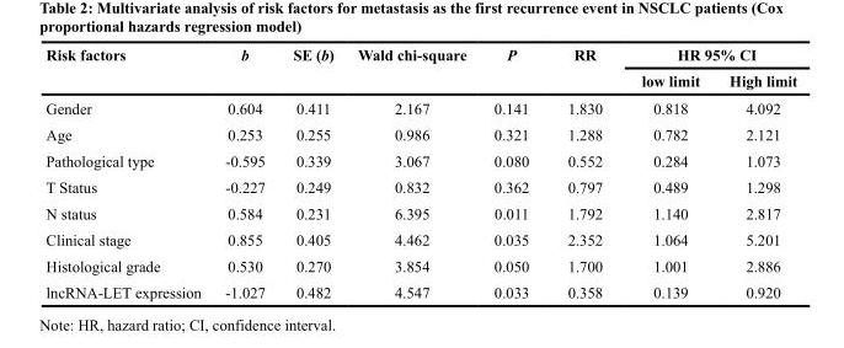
<table><thead><tr><td rowspan="2">Risk factors</td><td rowspan="2">b</td><td rowspan="2">SE (b)</td><td rowspan="2">Wald chi-square</td><td rowspan="2">P</td><td rowspan="2">RR</td><td colspan="2">HR 95% CI</td></tr><tr><td>low limit</td><td>High limit</td></tr></thead><tbody><tr><td>Gender</td><td>0.604</td><td>0.411</td><td>2.167</td><td>0.141</td><td>1.830</td><td>0.818</td><td>4.092</td></tr><tr><td>Age</td><td>0.253</td><td>0.255</td><td>0.986</td><td>0.321</td><td>1.288</td><td>0.782</td><td>2.121</td></tr><tr><td>Pathological type</td><td>-0.595</td><td>0.339</td><td>3.067</td><td>0.080</td><td>0.552</td><td>0.284</td><td>1.073</td></tr><tr><td>T Status</td><td>-0.227</td><td>0.249</td><td>0.832</td><td>0.362</td><td>0.797</td><td>0.489</td><td>1.298</td></tr><tr><td>N status</td><td>0.584</td><td>0.231</td><td>6.395</td><td>0.011</td><td>1.792</td><td>1.140</td><td>2.817</td></tr><tr><td>Clinical stage</td><td>0.855</td><td>0.405</td><td>4.462</td><td>0.035</td><td>2.352</td><td>1.064</td><td>5.201</td></tr><tr><td>Histological grade</td><td>0.530</td><td>0.270</td><td>3.854</td><td>0.050</td><td>1.700</td><td>1.001</td><td>2.886</td></tr><tr><td>lncRNA-LET expression</td><td>-1.027</td><td>0.482</td><td>4.547</td><td>0.033</td><td>0.358</td><td>0.139</td><td>0.920</td></tr></tbody></table>